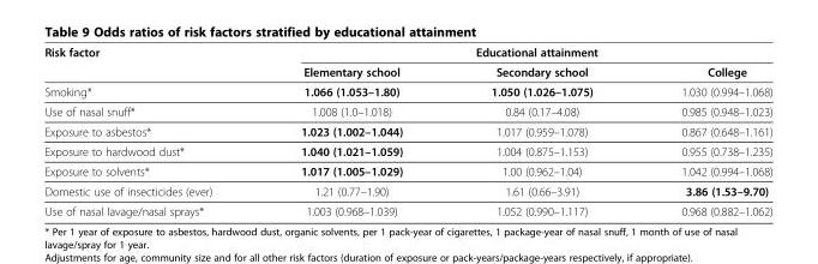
<table><thead><tr><td rowspan="2">Risk factor</td><td colspan="3">Educational attainment</td></tr><tr><td>Elementary school</td><td>Secondary school</td><td>College</td></tr></thead><tbody><tr><td>Smoking*</td><td>1.066 (1.053–1.80)</td><td>1.050 (1.026–1.075)</td><td>1.030 (0.994–1.068)</td></tr><tr><td>Use of nasal snuff*</td><td>1.008 (1.0–1.018)</td><td>0.84 (0.17–4.08)</td><td>0.985 (0.948–1.023)</td></tr><tr><td>Exposure to asbestos*</td><td>1.023 (1.002–1.044)</td><td>1.017 (0.959–1.078)</td><td>0.867 (0.648–1.161)</td></tr><tr><td>Exposure to hardwood dust*</td><td>1.040 (1.021–1.059)</td><td>1.004 (0.875–1.153)</td><td>0.955 (0.738–1.235)</td></tr><tr><td>Exposure to solvents*</td><td>1.017 (1.005–1.029)</td><td>1.00 (0.962–1.04)</td><td>1.042 (0.994–1.068)</td></tr><tr><td>Domestic use of insecticides (ever)</td><td>1.21 (0.77–1.90)</td><td>1.61 (0.66–3.91)</td><td>3.86 (1.53–9.70)</td></tr><tr><td>Use of nasal lavage/nasal sprays*</td><td>1.003 (0.968–1.039)</td><td>1.052 (0.990–1.117)</td><td>0.968 (0.882–1.062)</td></tr></tbody></table>